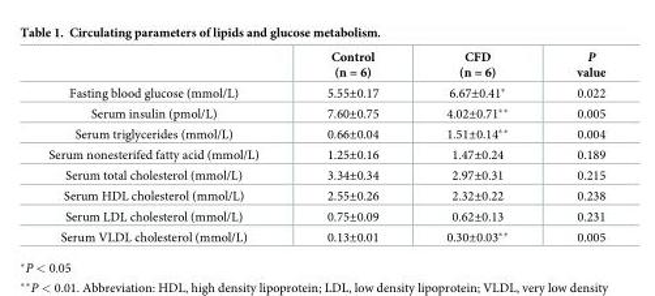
<table><thead><tr><td></td><td>Control (n = 6)</td><td>CFD (n = 6)</td><td>P value</td></tr></thead><tbody><tr><td>Fasting blood glucose (mmol/L)</td><td>5.55±0.17</td><td>6.67±0.41*</td><td>0.022</td></tr><tr><td>Serum insulin (pmol/L)</td><td>7.60±0.75</td><td>4.02±0.71**</td><td>0.005</td></tr><tr><td>Serum triglycerides (mmol/L)</td><td>0.66±0.04</td><td>1.51±0.14**</td><td>0.004</td></tr><tr><td>Serum nonesterifed fatty acid (mmol/L)</td><td>1.25±0.16</td><td>1.47±0.24</td><td>0.189</td></tr><tr><td>Serum total cholesterol (mmol/L)</td><td>3.34±0.34</td><td>2.97±0.31</td><td>0.215</td></tr><tr><td>Serum HDL cholesterol (mmol/L)</td><td>2.55±0.26</td><td>2.32±0.22</td><td>0.238</td></tr><tr><td>Serum LDL cholesterol (mmol/L)</td><td>0.75±0.09</td><td>0.62±0.13</td><td>0.231</td></tr><tr><td>Serum VLDL cholesterol (mmol/L)</td><td>0.13±0.01</td><td>0.30±0.03**</td><td>0.005</td></tr></tbody></table>